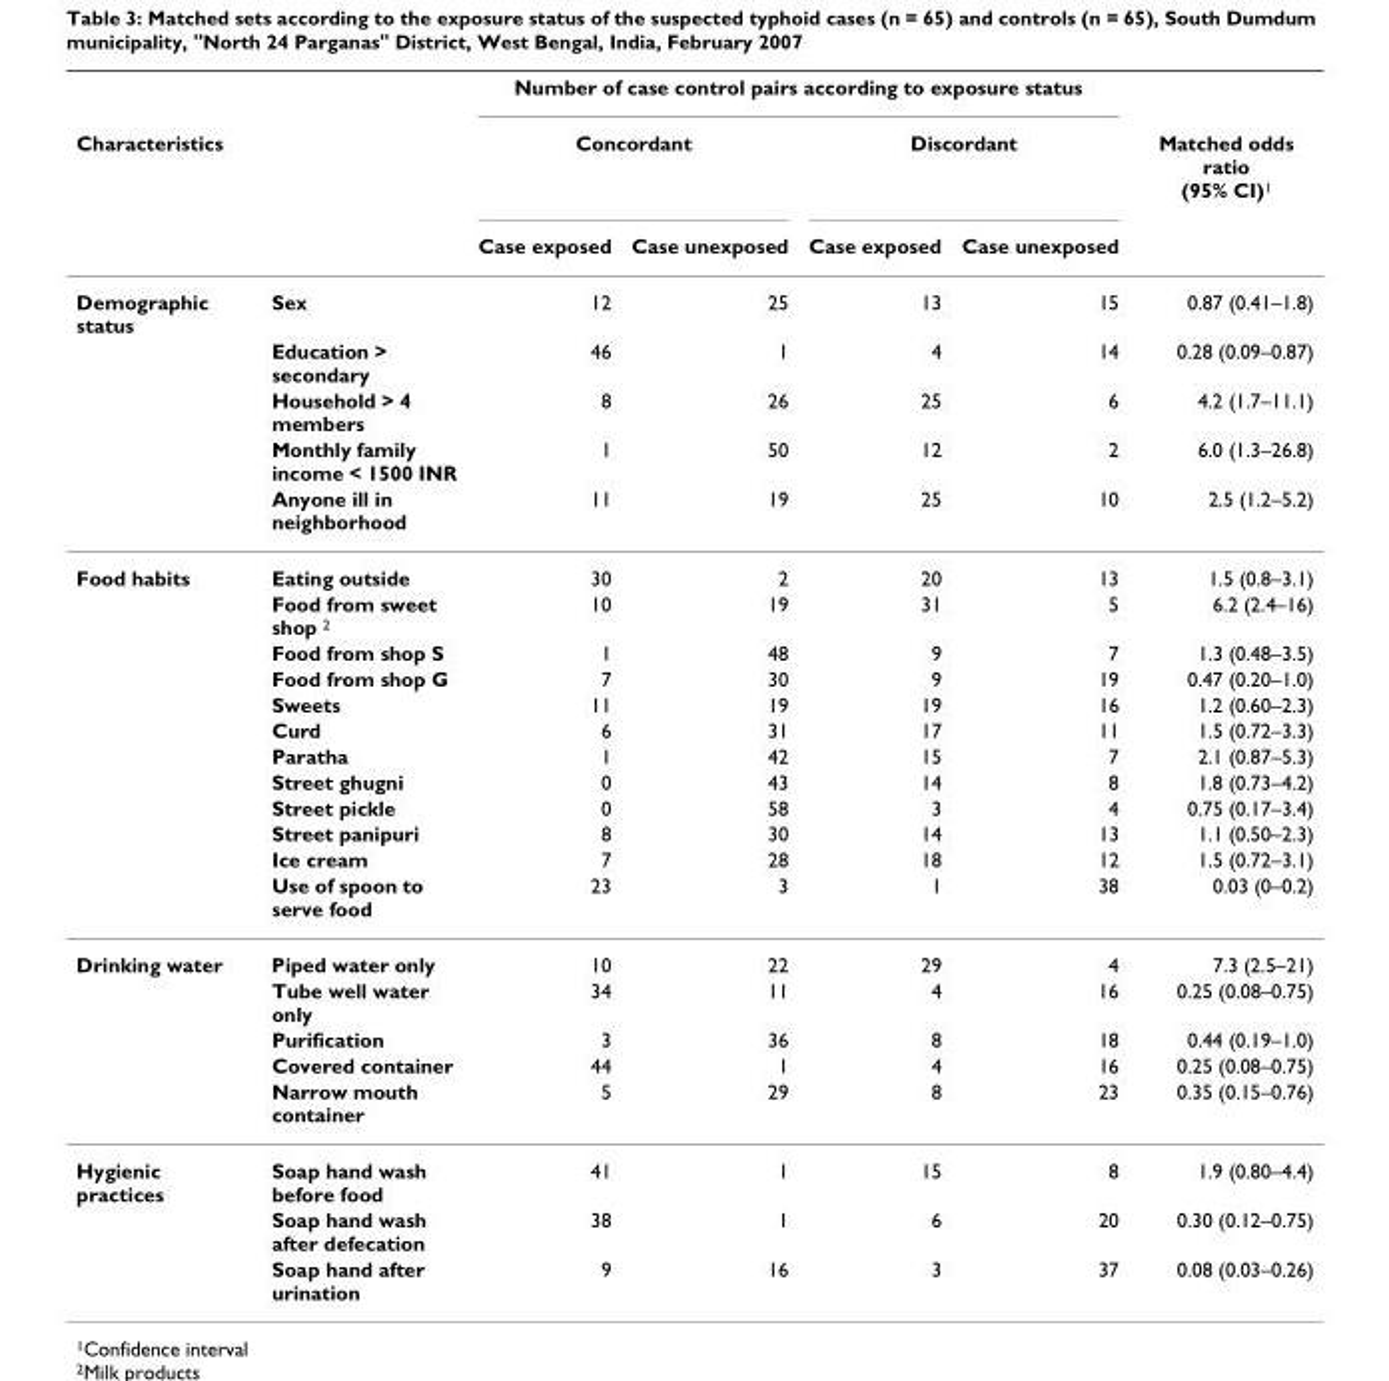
<table><thead><tr><td rowspan="3">Characteristics</td><td rowspan="3"></td><td colspan="4">Number of case control pairs according to exposure status</td><td rowspan="3">Matched odds ratio (95% CI)<sup>1</sup></td></tr><tr><td colspan="2">Concordant</td><td colspan="2">Discordant</td></tr><tr><td>Case exposed</td><td>Case unexposed</td><td>Case exposed</td><td>Case unexposed</td></tr></thead><tbody><tr><td rowspan="5">Demographic status</td><td>Sex</td><td>12</td><td>25</td><td>13</td><td>15</td><td>0.87 (0.41–1.8)</td></tr><tr><td>Education &gt; secondary</td><td>46</td><td>1</td><td>4</td><td>14</td><td>0.28 (0.09–0.87)</td></tr><tr><td>Household &gt; 4 members</td><td>8</td><td>26</td><td>25</td><td>6</td><td>4.2 (1.7–11.1)</td></tr><tr><td>Monthly family income &lt; 1500 INR</td><td>1</td><td>50</td><td>12</td><td>2</td><td>6.0 (1.3–26.8)</td></tr><tr><td>Anyone ill in neighborhood</td><td>11</td><td>19</td><td>25</td><td>10</td><td>2.5 (1.2–5.2)</td></tr><tr><td rowspan="12">Food habits</td><td>Eating outside</td><td>30</td><td>2</td><td>20</td><td>13</td><td>1.5 (0.8–3.1)</td></tr><tr><td>Food from sweet shop <sup>2</sup></td><td>10</td><td>19</td><td>31</td><td>5</td><td>6.2 (2.4–16)</td></tr><tr><td>Food from shop S</td><td>1</td><td>48</td><td>9</td><td>7</td><td>1.3 (0.48–3.5)</td></tr><tr><td>Food from shop G</td><td>7</td><td>30</td><td>9</td><td>19</td><td>0.47 (0.20–1.0)</td></tr><tr><td>Sweets</td><td>11</td><td>19</td><td>19</td><td>16</td><td>1.2 (0.60–2.3)</td></tr><tr><td>Curd</td><td>6</td><td>31</td><td>17</td><td>11</td><td>1.5 (0.72–3.3)</td></tr><tr><td>Paratha</td><td>1</td><td>42</td><td>15</td><td>7</td><td>2.1 (0.87–5.3)</td></tr><tr><td>Street ghugni</td><td>0</td><td>43</td><td>14</td><td>8</td><td>1.8 (0.73–4.2)</td></tr><tr><td>Street pickle</td><td>0</td><td>58</td><td>3</td><td>4</td><td>0.75 (0.17–3.4)</td></tr><tr><td>Street panipuri</td><td>8</td><td>30</td><td>14</td><td>13</td><td>1.1 (0.50–2.3)</td></tr><tr><td>Ice cream</td><td>7</td><td>28</td><td>18</td><td>12</td><td>1.5 (0.72–3.1)</td></tr><tr><td>Use of spoon to serve food</td><td>23</td><td>3</td><td>1</td><td>38</td><td>0.03 (0–0.2)</td></tr><tr><td rowspan="5">Drinking water</td><td>Piped water only</td><td>10</td><td>22</td><td>29</td><td>4</td><td>7.3 (2.5–21)</td></tr><tr><td>Tube well water only</td><td>34</td><td>11</td><td>4</td><td>16</td><td>0.25 (0.08–0.75)</td></tr><tr><td>Purification</td><td>3</td><td>36</td><td>8</td><td>18</td><td>0.44 (0.19–1.0)</td></tr><tr><td>Covered container</td><td>44</td><td>1</td><td>4</td><td>16</td><td>0.25 (0.08–0.75)</td></tr><tr><td>Narrow mouth container</td><td>5</td><td>29</td><td>8</td><td>23</td><td>0.35 (0.15–0.76)</td></tr><tr><td rowspan="3">Hygienic practices</td><td>Soap hand wash before food</td><td>41</td><td>1</td><td>15</td><td>8</td><td>1.9 (0.80–4.4)</td></tr><tr><td>Soap hand wash after defecation</td><td>38</td><td>1</td><td>6</td><td>20</td><td>0.30 (0.12–0.75)</td></tr><tr><td>Soap hand after urination</td><td>9</td><td>16</td><td>3</td><td>37</td><td>0.08 (0.03–0.26)</td></tr></tbody></table>